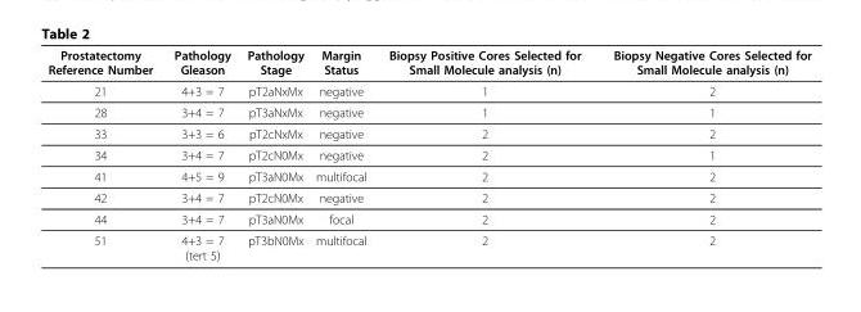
<table><thead><tr><td>Prostatectomy Reference Number</td><td>Pathology Gleason</td><td>Pathology Stage</td><td>Margin Status</td><td>Biopsy Positive Cores Selected for Small Molecule analysis (n)</td><td>Biopsy Negative Cores Selected for Small Molecule analysis (n)</td></tr></thead><tbody><tr><td>21</td><td>4+3 = 7</td><td>pT2aNxMx</td><td>negative</td><td>1</td><td>2</td></tr><tr><td>28</td><td>3+4 = 7</td><td>pT3aNxMx</td><td>negative</td><td>1</td><td>1</td></tr><tr><td>33</td><td>3+3 = 6</td><td>pT2cNxMx</td><td>negative</td><td>2</td><td>2</td></tr><tr><td>34</td><td>3+4 = 7</td><td>pT2cN0Mx</td><td>negative</td><td>2</td><td>1</td></tr><tr><td>41</td><td>4+5 = 9</td><td>pT3aN0Mx</td><td>multifocal</td><td>2</td><td>2</td></tr><tr><td>42</td><td>3+4 = 7</td><td>pT2cN0Mx</td><td>negative</td><td>2</td><td>2</td></tr><tr><td>44</td><td>3+4 = 7</td><td>pT3aN0Mx</td><td>focal</td><td>2</td><td>2</td></tr><tr><td>51</td><td>4+3 = 7 (tert 5)</td><td>pT3bN0Mx</td><td>multifocal</td><td>2</td><td>2</td></tr></tbody></table>